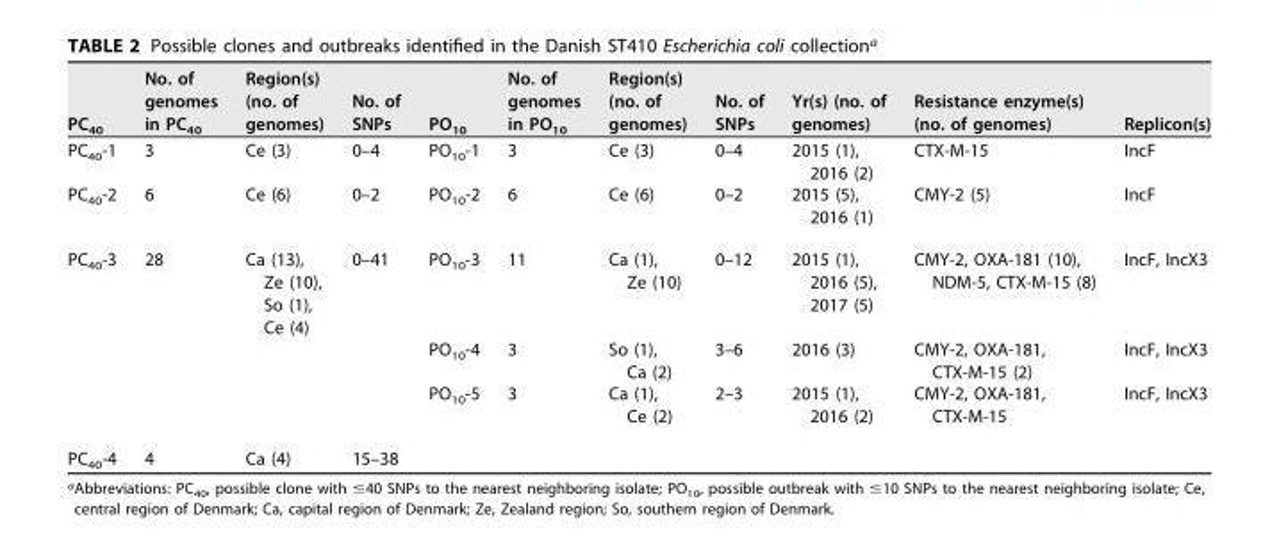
<table><thead><tr><td>PC<sub>40</sub></td><td>No. of genomes in PC<sub>40</sub></td><td>Region(s) (no. of genomes)</td><td>No. of SNPs</td><td>PO<sub>10</sub></td><td>No. of genomes in PO<sub>10</sub></td><td>Region(s) (no. of genomes)</td><td>No. of SNPs</td><td>Yr(s) (no. of genomes)</td><td>Resistance enzyme(s) (no. of genomes)</td><td>Replicon(s)</td></tr></thead><tbody><tr><td>PC<sub>40</sub>-1</td><td>3</td><td>Ce (3)</td><td>0–4</td><td>PO<sub>10</sub>-1</td><td>3</td><td>Ce (3)</td><td>0–4</td><td>2015 (1), 2016 (2)</td><td>CTX-M-15</td><td>IncF</td></tr><tr><td>PC<sub>40</sub>-2</td><td>6</td><td>Ce (6)</td><td>0–2</td><td>PO<sub>10</sub>-2</td><td>6</td><td>Ce (6)</td><td>0–2</td><td>2015 (5), 2016 (1)</td><td>CMY-2 (5)</td><td>IncF</td></tr><tr><td rowspan="3">PC<sub>40</sub>-3</td><td>28</td><td>Ca (13), Ze (10), So (1), Ce (4)</td><td>0–41</td><td>PO<sub>10</sub>-3</td><td>11</td><td>Ca (1), Ze (10)</td><td>0–12</td><td>2015 (1), 2016 (5), 2017 (5)</td><td>CMY-2, OXA-181 (10), NDM-5, CTX-M-15 (8)</td><td>IncF, IncX3</td></tr><tr><td></td><td></td><td></td><td>PO<sub>10</sub>-4</td><td>3</td><td>So (1), Ca (2)</td><td>3–6</td><td>2016 (3)</td><td>CMY-2, OXA-181, CTX-M-15 (2)</td><td>IncF, IncX3</td></tr><tr><td></td><td></td><td></td><td>PO<sub>10</sub>-5</td><td>3</td><td>Ca (1), Ce (2)</td><td>2–3</td><td>2015 (1), 2016 (2)</td><td>CMY-2, OXA-181, CTX-M-15</td><td>IncF, IncX3</td></tr><tr><td>PC<sub>40</sub>-4</td><td>4</td><td>Ca (4)</td><td>15–38</td><td></td><td></td><td></td><td></td><td></td><td></td><td></td></tr></tbody></table>